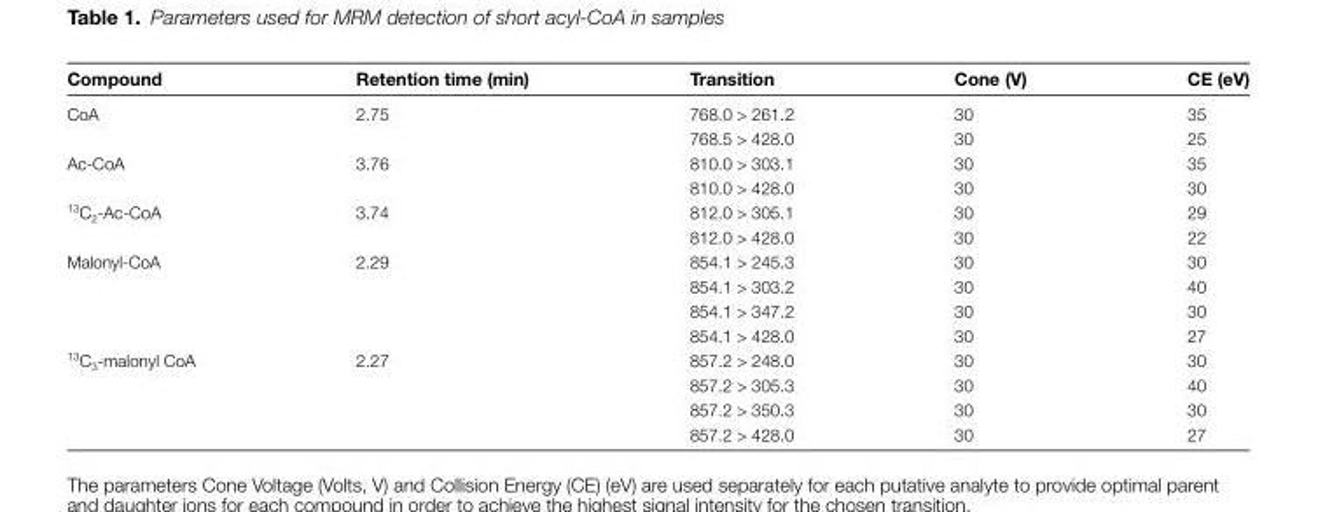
<table><thead><tr><td>Compound</td><td>Retention time (min)</td><td>Transition</td><td>Cone (V)</td><td>CE (eV)</td></tr></thead><tbody><tr><td rowspan="2">CoA</td><td rowspan="2">2.75</td><td>768.0 &gt; 261.2</td><td>30</td><td>35</td></tr><tr><td>768.5 &gt; 428.0</td><td>30</td><td>25</td></tr><tr><td rowspan="2">Ac-CoA</td><td rowspan="2">3.76</td><td>810.0 &gt; 303.1</td><td>30</td><td>35</td></tr><tr><td>810.0 &gt; 428.0</td><td>30</td><td>30</td></tr><tr><td rowspan="2"><sup>13</sup>C<sub>2</sub>-Ac-CoA</td><td rowspan="2">3.74</td><td>812.0 &gt; 305.1</td><td>30</td><td>29</td></tr><tr><td>812.0 &gt; 428.0</td><td>30</td><td>22</td></tr><tr><td rowspan="4">Malonyl-CoA</td><td rowspan="4">2.29</td><td>854.1 &gt; 245.3</td><td>30</td><td>30</td></tr><tr><td>854.1 &gt; 303.2</td><td>30</td><td>40</td></tr><tr><td>854.1 &gt; 347.2</td><td>30</td><td>30</td></tr><tr><td>854.1 &gt; 428.0</td><td>30</td><td>27</td></tr><tr><td rowspan="4"><sup>13</sup>C<sub>3</sub>-malonyl CoA</td><td rowspan="4">2.27</td><td>857.2 &gt; 248.0</td><td>30</td><td>30</td></tr><tr><td>857.2 &gt; 305.3</td><td>30</td><td>40</td></tr><tr><td>857.2 &gt; 350.3</td><td>30</td><td>30</td></tr><tr><td>857.2 &gt; 428.0</td><td>30</td><td>27</td></tr></tbody></table>